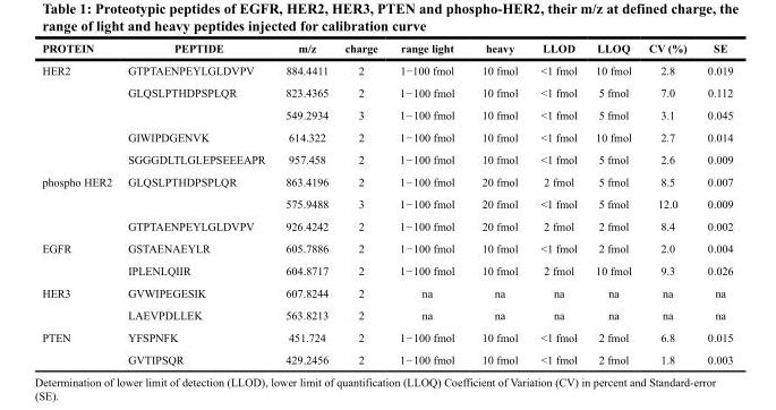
<table><thead><tr><td>PROTEIN</td><td>PEPTIDE</td><td>m/z</td><td>charge</td><td>range light</td><td>heavy</td><td>LLOD</td><td>LLOQ</td><td>CV (%)</td><td>SE</td></tr></thead><tbody><tr><td rowspan="5">HER2</td><td>GTPTAENPEYLGLDVPV</td><td>884.4411</td><td>2</td><td>1−100 fmol</td><td>10 fmol</td><td>&lt;1 fmol</td><td>10 fmol</td><td>2.8</td><td>0.019</td></tr><tr><td>GLQSLPTHDPSPLQR</td><td>823.4365</td><td>2</td><td>1−100 fmol</td><td>10 fmol</td><td>&lt;1 fmol</td><td>5 fmol</td><td>7.0</td><td>0.112</td></tr><tr><td></td><td>549.2934</td><td>3</td><td>1−100 fmol</td><td>10 fmol</td><td>&lt;1 fmol</td><td>5 fmol</td><td>3.1</td><td>0.045</td></tr><tr><td>GIWIPDGENVK</td><td>614.322</td><td>2</td><td>1−100 fmol</td><td>10 fmol</td><td>&lt;1 fmol</td><td>10 fmol</td><td>2.7</td><td>0.014</td></tr><tr><td>SGGGDLTLGLEPSEEEAPR</td><td>957.458</td><td>2</td><td>1−100 fmol</td><td>10 fmol</td><td>&lt;1 fmol</td><td>5 fmol</td><td>2.6</td><td>0.009</td></tr><tr><td rowspan="3">phospho HER2</td><td>GLQSLPTHDPSPLQR</td><td>863.4196</td><td>2</td><td>1−100 fmol</td><td>20 fmol</td><td>2 fmol</td><td>5 fmol</td><td>8.5</td><td>0.007</td></tr><tr><td></td><td>575.9488</td><td>3</td><td>1−100 fmol</td><td>20 fmol</td><td>&lt;1 fmol</td><td>5 fmol</td><td>12.0</td><td>0.009</td></tr><tr><td>GTPTAENPEYLGLDVPV</td><td>926.4242</td><td>2</td><td>1−100 fmol</td><td>20 fmol</td><td>2 fmol</td><td>2 fmol</td><td>8.4</td><td>0.002</td></tr><tr><td rowspan="2">EGFR</td><td>GSTAENAEYLR</td><td>605.7886</td><td>2</td><td>1−100 fmol</td><td>10 fmol</td><td>&lt;1 fmol</td><td>2 fmol</td><td>2.0</td><td>0.004</td></tr><tr><td>IPLENLQIIR</td><td>604.8717</td><td>2</td><td>1−100 fmol</td><td>10 fmol</td><td>2 fmol</td><td>10 fmol</td><td>9.3</td><td>0.026</td></tr><tr><td rowspan="2">HER3</td><td>GVWIPEGESIK</td><td>607.8244</td><td>2</td><td>na</td><td>na</td><td>na</td><td>na</td><td>na</td><td>na</td></tr><tr><td>LAEVPDLLEK</td><td>563.8213</td><td>2</td><td>na</td><td>na</td><td>na</td><td>na</td><td>na</td><td>na</td></tr><tr><td rowspan="2">PTEN</td><td>YFSPNFK</td><td>451.724</td><td>2</td><td>1−100 fmol</td><td>10 fmol</td><td>&lt;1 fmol</td><td>2 fmol</td><td>6.8</td><td>0.015</td></tr><tr><td>GVTIPSQR</td><td>429.2456</td><td>2</td><td>1−100 fmol</td><td>10 fmol</td><td>&lt;1 fmol</td><td>2 fmol</td><td>1.8</td><td>0.003</td></tr></tbody></table>